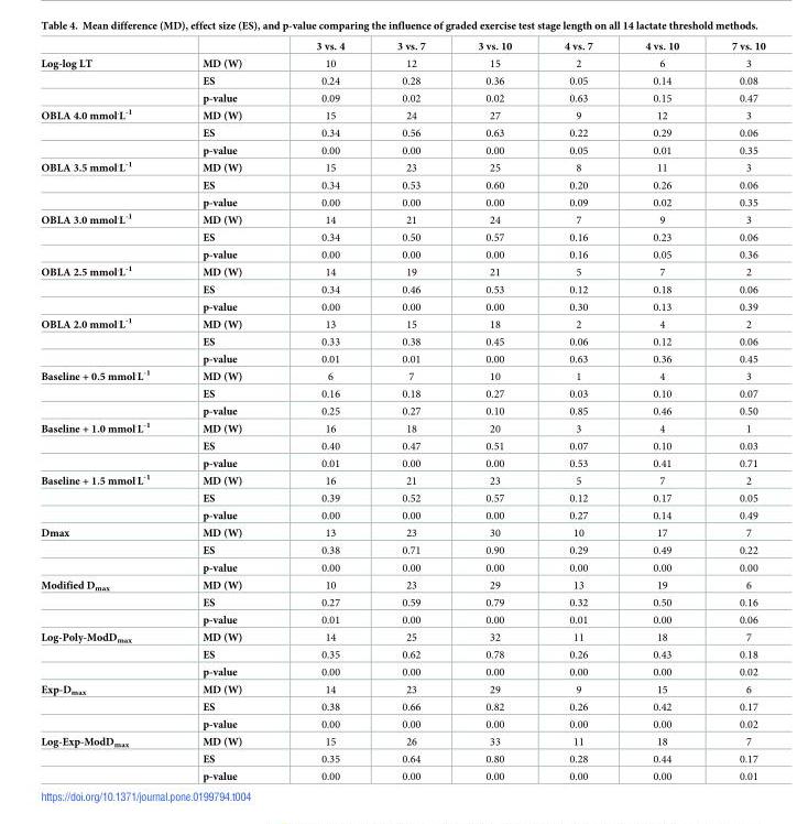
<table><thead><tr><td></td><td></td><td>3 vs. 4</td><td>3 vs. 7</td><td>3 vs. 10</td><td>4 vs. 7</td><td>4 vs. 10</td><td>7 vs. 10</td></tr></thead><tbody><tr><td rowspan="3">Log-log LT</td><td>MD (W)</td><td>10</td><td>12</td><td>15</td><td>2</td><td>6</td><td>3</td></tr><tr><td>ES</td><td>0.24</td><td>0.28</td><td>0.36</td><td>0.05</td><td>0.14</td><td>0.08</td></tr><tr><td>p-value</td><td>0.09</td><td>0.02</td><td>0.02</td><td>0.63</td><td>0.15</td><td>0.47</td></tr><tr><td rowspan="3">OBLA 4.0 mmol<sup>.</sup>L<sup>-1</sup></td><td>MD (W)</td><td>15</td><td>24</td><td>27</td><td>9</td><td>12</td><td>3</td></tr><tr><td>ES</td><td>0.34</td><td>0.56</td><td>0.63</td><td>0.22</td><td>0.29</td><td>0.06</td></tr><tr><td>p-value</td><td>0.00</td><td>0.00</td><td>0.00</td><td>0.05</td><td>0.01</td><td>0.35</td></tr><tr><td rowspan="3">OBLA 3.5 mmol<sup>.</sup>L<sup>-1</sup></td><td>MD (W)</td><td>15</td><td>23</td><td>25</td><td>8</td><td>11</td><td>3</td></tr><tr><td>ES</td><td>0.34</td><td>0.53</td><td>0.60</td><td>0.20</td><td>0.26</td><td>0.06</td></tr><tr><td>p-value</td><td>0.00</td><td>0.00</td><td>0.00</td><td>0.09</td><td>0.02</td><td>0.35</td></tr><tr><td rowspan="3">OBLA 3.0 mmol<sup>.</sup>L<sup>-1</sup></td><td>MD (W)</td><td>14</td><td>21</td><td>24</td><td>7</td><td>9</td><td>3</td></tr><tr><td>ES</td><td>0.34</td><td>0.50</td><td>0.57</td><td>0.16</td><td>0.23</td><td>0.06</td></tr><tr><td>p-value</td><td>0.00</td><td>0.00</td><td>0.00</td><td>0.16</td><td>0.05</td><td>0.36</td></tr><tr><td rowspan="3">OBLA 2.5 mmol<sup>.</sup>L<sup>-1</sup></td><td>MD (W)</td><td>14</td><td>19</td><td>21</td><td>5</td><td>7</td><td>2</td></tr><tr><td>ES</td><td>0.34</td><td>0.46</td><td>0.53</td><td>0.12</td><td>0.18</td><td>0.06</td></tr><tr><td>p-value</td><td>0.00</td><td>0.00</td><td>0.00</td><td>0.30</td><td>0.13</td><td>0.39</td></tr><tr><td rowspan="3">OBLA 2.0 mmol<sup>.</sup>L<sup>-1</sup></td><td>MD (W)</td><td>13</td><td>15</td><td>18</td><td>2</td><td>4</td><td>2</td></tr><tr><td>ES</td><td>0.33</td><td>0.38</td><td>0.45</td><td>0.06</td><td>0.12</td><td>0.06</td></tr><tr><td>p-value</td><td>0.01</td><td>0.01</td><td>0.00</td><td>0.63</td><td>0.36</td><td>0.45</td></tr><tr><td rowspan="3">Baseline + 0.5 mmol<sup>.</sup>L<sup>-1</sup></td><td>MD (W)</td><td>6</td><td>7</td><td>10</td><td>1</td><td>4</td><td>3</td></tr><tr><td>ES</td><td>0.16</td><td>0.18</td><td>0.27</td><td>0.03</td><td>0.10</td><td>0.07</td></tr><tr><td>p-value</td><td>0.25</td><td>0.27</td><td>0.10</td><td>0.85</td><td>0.46</td><td>0.50</td></tr><tr><td rowspan="3">Baseline + 1.0 mmol<sup>.</sup>L<sup>-1</sup></td><td>MD (W)</td><td>16</td><td>18</td><td>20</td><td>3</td><td>4</td><td>1</td></tr><tr><td>ES</td><td>0.40</td><td>0.47</td><td>0.51</td><td>0.07</td><td>0.10</td><td>0.03</td></tr><tr><td>p-value</td><td>0.01</td><td>0.00</td><td>0.00</td><td>0.53</td><td>0.41</td><td>0.71</td></tr><tr><td rowspan="3">Baseline + 1.5 mmol<sup>.</sup>L<sup>-1</sup></td><td>MD (W)</td><td>16</td><td>21</td><td>23</td><td>5</td><td>7</td><td>2</td></tr><tr><td>ES</td><td>0.39</td><td>0.52</td><td>0.57</td><td>0.12</td><td>0.17</td><td>0.05</td></tr><tr><td>p-value</td><td>0.00</td><td>0.00</td><td>0.00</td><td>0.27</td><td>0.14</td><td>0.49</td></tr><tr><td rowspan="3">Dmax</td><td>MD (W)</td><td>13</td><td>23</td><td>30</td><td>10</td><td>17</td><td>7</td></tr><tr><td>ES</td><td>0.38</td><td>0.71</td><td>0.90</td><td>0.29</td><td>0.49</td><td>0.22</td></tr><tr><td>p-value</td><td>0.00</td><td>0.00</td><td>0.00</td><td>0.00</td><td>0.00</td><td>0.00</td></tr><tr><td rowspan="3">Modified D<sub>max</sub></td><td>MD (W)</td><td>10</td><td>23</td><td>29</td><td>13</td><td>19</td><td>6</td></tr><tr><td>ES</td><td>0.27</td><td>0.59</td><td>0.79</td><td>0.32</td><td>0.50</td><td>0.16</td></tr><tr><td>p-value</td><td>0.01</td><td>0.00</td><td>0.00</td><td>0.01</td><td>0.00</td><td>0.06</td></tr><tr><td rowspan="3">Log-Poly-ModD<sub>max</sub></td><td>MD (W)</td><td>14</td><td>25</td><td>32</td><td>11</td><td>18</td><td>7</td></tr><tr><td>ES</td><td>0.35</td><td>0.62</td><td>0.78</td><td>0.26</td><td>0.43</td><td>0.18</td></tr><tr><td>p-value</td><td>0.00</td><td>0.00</td><td>0.00</td><td>0.00</td><td>0.00</td><td>0.02</td></tr><tr><td rowspan="3">Exp-D<sub>max</sub></td><td>MD (W)</td><td>14</td><td>23</td><td>29</td><td>9</td><td>15</td><td>6</td></tr><tr><td>ES</td><td>0.38</td><td>0.66</td><td>0.82</td><td>0.26</td><td>0.42</td><td>0.17</td></tr><tr><td>p-value</td><td>0.00</td><td>0.00</td><td>0.00</td><td>0.00</td><td>0.00</td><td>0.02</td></tr><tr><td rowspan="3">Log-Exp-ModD<sub>max</sub></td><td>MD (W)</td><td>15</td><td>26</td><td>33</td><td>11</td><td>18</td><td>7</td></tr><tr><td>ES</td><td>0.35</td><td>0.64</td><td>0.80</td><td>0.28</td><td>0.44</td><td>0.17</td></tr><tr><td>p-value</td><td>0.00</td><td>0.00</td><td>0.00</td><td>0.00</td><td>0.00</td><td>0.01</td></tr></tbody></table>